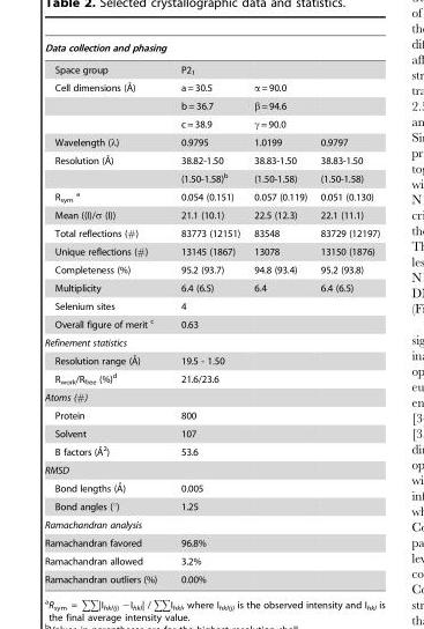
<table><thead><tr><td>Data collection and phasing</td><td></td><td></td><td></td></tr></thead><tbody><tr><td>Space group</td><td>P2<sub>1</sub></td><td></td><td></td></tr><tr><td rowspan="3">Cell dimensions (A˚)</td><td>a= 30.5</td><td>α= 90.0</td><td></td></tr><tr><td>b = 36.7</td><td>β= 94.6</td><td></td></tr><tr><td>c= 38.9</td><td>γ = 90.0</td><td></td></tr><tr><td>Wavelength (λ)</td><td>0.9795</td><td>1.0199</td><td>0.9797</td></tr><tr><td rowspan="2">Resolution (A˚)</td><td>38.82-1.50</td><td>38.83-1.50</td><td>38.83-1.50</td></tr><tr><td>(1.50-1.58)<sup>b</sup></td><td>(1.50-1.58)</td><td>(1.50-1.58)</td></tr><tr><td>R<sub>sym</sub> a</td><td>0.054 (0.151)</td><td>0.057 (0.119)</td><td>0.051 (0.130)</td></tr><tr><td>Mean ((I)/σ (I))</td><td>21.1 (10.1)</td><td>22.5 (12.3)</td><td>22.1 (11.1)</td></tr><tr><td>Total reflections (#)</td><td>83773 (12151)</td><td>83548</td><td>83729 (12197)</td></tr><tr><td>Unique reflections (#)</td><td>13145 (1867)</td><td>13078</td><td>13150 (1876)</td></tr><tr><td>Completeness (%)</td><td>95.2 (93.7)</td><td>94.8 (93.4)</td><td>95.2 (93.8)</td></tr><tr><td>Multiplicity</td><td>6.4 (6.5)</td><td>6.4</td><td>6.4 (6.5)</td></tr><tr><td>Selenium sites</td><td>4</td><td></td><td></td></tr><tr><td>Overall figure of merit c</td><td>0.63</td><td></td><td></td></tr><tr><td colspan="4">Refinement statistics</td></tr><tr><td>Resolution range (A˚)</td><td>19.5 - 1.50</td><td></td><td></td></tr><tr><td>R<sub>work</sub>/R<sub>free</sub> (%)<sup>d</sup></td><td>21.6/23.6</td><td></td><td></td></tr><tr><td colspan="4">Atoms (#)</td></tr><tr><td>Protein</td><td>800</td><td></td><td></td></tr><tr><td>Solvent</td><td>107</td><td></td><td></td></tr><tr><td>B factors (A˚2)</td><td>53.6</td><td></td><td></td></tr><tr><td colspan="4">RMSD</td></tr><tr><td>Bond lengths (A˚)</td><td>0.005</td><td></td><td></td></tr><tr><td>Bond angles (°)</td><td>1.25</td><td></td><td></td></tr><tr><td colspan="4">Ramachandran analysis</td></tr><tr><td>Ramachandran favored</td><td>96.8%</td><td></td><td></td></tr><tr><td>Ramachandran allowed</td><td>3.2%</td><td></td><td></td></tr><tr><td>Ramachandran outliers (%)</td><td>0.00%</td><td></td><td></td></tr></tbody></table>